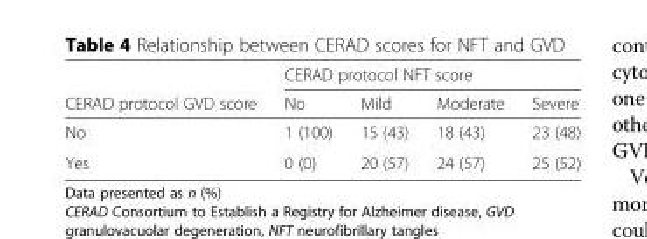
<table><thead><tr><td rowspan="2">CERAD protocol GVD score</td><td colspan="4">CERAD protocol NFT score</td></tr><tr><td>No</td><td>Mild</td><td>Moderate</td><td>Severe</td></tr></thead><tbody><tr><td>No</td><td>1 (100)</td><td>15 (43)</td><td>18 (43)</td><td>23 (48)</td></tr><tr><td>Yes</td><td>0 (0)</td><td>20 (57)</td><td>24 (57)</td><td>25 (52)</td></tr></tbody></table>